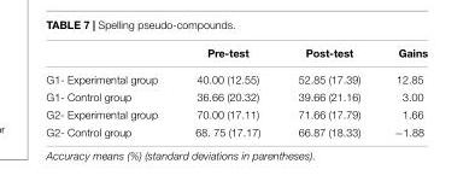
<table><thead><tr><td></td><td>Pre-test</td><td>Post-test</td><td>Gains</td></tr></thead><tbody><tr><td>G1- Experimental group</td><td>40.00 (12.55)</td><td>52.85 (17.39)</td><td>12.85</td></tr><tr><td>G1- Control group</td><td>36.66 (20.32)</td><td>39.66 (21.16)</td><td>3.00</td></tr><tr><td>G2- Experimental group</td><td>70.00 (17.11)</td><td>71.66 (17.79)</td><td>1.66</td></tr><tr><td>G2- Control group</td><td>68. 75 (17.17)</td><td>66.87 (18.33)</td><td>−1.88</td></tr></tbody></table>